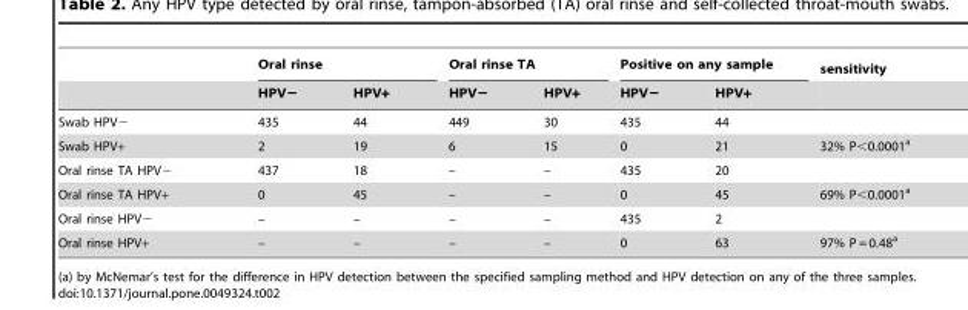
<table><thead><tr><td rowspan="2"></td><td colspan="2">Oral rinse</td><td colspan="2">Oral rinse TA</td><td colspan="2">Positive on any sample</td><td rowspan="2">sensitivity</td></tr><tr><td>HPV−</td><td>HPV+</td><td>HPV−</td><td>HPV+</td><td>HPV−</td><td>HPV+</td></tr></thead><tbody><tr><td>Swab HPV−</td><td>435</td><td>44</td><td>449</td><td>30</td><td>435</td><td>44</td><td></td></tr><tr><td>Swab HPV+</td><td>2</td><td>19</td><td>6</td><td>15</td><td>0</td><td>21</td><td>32% P&lt;0.0001<sup>a</sup></td></tr><tr><td>Oral rinse TA HPV−</td><td>437</td><td>18</td><td>–</td><td>–</td><td>435</td><td>20</td><td></td></tr><tr><td>Oral rinse TA HPV+</td><td>0</td><td>45</td><td>–</td><td>–</td><td>0</td><td>45</td><td>69% P&lt;0.0001<sup>a</sup></td></tr><tr><td>Oral rinse HPV−</td><td>–</td><td>–</td><td>–</td><td>–</td><td>435</td><td>2</td><td></td></tr><tr><td>Oral rinse HPV+</td><td>–</td><td>–</td><td>–</td><td>–</td><td>0</td><td>63</td><td>97% P = 0.48<sup>a</sup></td></tr></tbody></table>